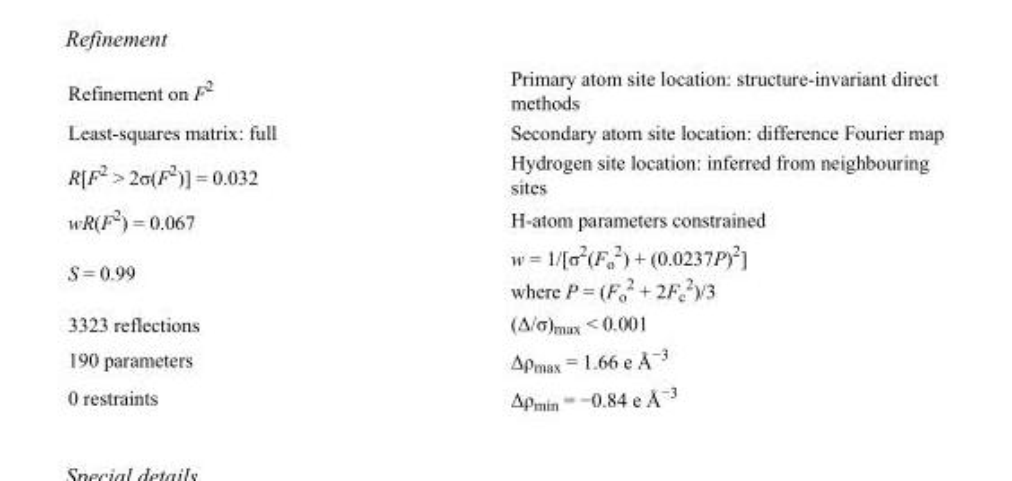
<table><tbody><tr><td>Refinement on F<sup>2</sup></td><td>Primary atom site location: structure-invariant direct methods</td></tr><tr><td>Least-squares matrix: full</td><td>Secondary atom site location: difference Fourier map</td></tr><tr><td>R[F<sup>2</sup> &gt; 2σ(F<sup>2</sup>)] = 0.032</td><td>Hydrogen site location: inferred from neighbouring sites</td></tr><tr><td>wR(F<sup>2</sup>) = 0.067</td><td>H-atom parameters constrained</td></tr><tr><td>S = 0.99</td><td>w = 1/[σ<sup>2</sup>(F<sub>o</sub> <sup>2</sup>) + (0.0237P)<sup>2</sup>] where P = (F<sub>o</sub> <sup>2</sup> + 2F<sub>c</sub> <sup>2</sup>)/3</td></tr><tr><td>3323 reflections</td><td>(Δ/σ)<sub>max</sub> &lt; 0.001</td></tr><tr><td>190 parameters</td><td>Δρ<sub>max</sub> = 1.66 e Å<sup>−3</sup></td></tr><tr><td>0 restraints</td><td>Δρ<sub>min</sub> = −0.84 e Å<sup>−3</sup></td></tr></tbody></table>